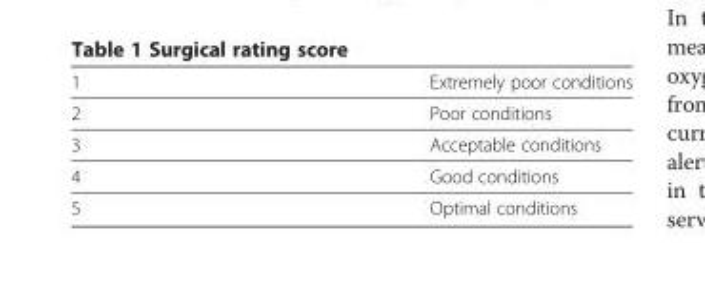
<table><tbody><tr><td>1</td><td>Extremely poor conditions</td></tr><tr><td>2</td><td>Poor conditions</td></tr><tr><td>3</td><td>Acceptable conditions</td></tr><tr><td>4</td><td>Good conditions</td></tr><tr><td>5</td><td>Optimal conditions</td></tr></tbody></table>